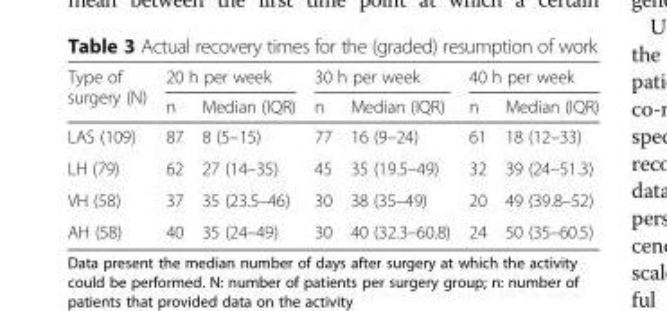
<table><thead><tr><td rowspan="2">Type of surgery (N)</td><td colspan="2">20 h per week</td><td colspan="2">30 h per week</td><td colspan="2">40 h per week</td></tr><tr><td>n</td><td>Median (IQR)</td><td>n</td><td>Median (IQR)</td><td>n</td><td>Median (IQR)</td></tr></thead><tbody><tr><td>LAS (109)</td><td>87</td><td>8 (5–15)</td><td>77</td><td>16 (9–24)</td><td>61</td><td>18 (12–33)</td></tr><tr><td>LH (79)</td><td>62</td><td>27 (14–35)</td><td>45</td><td>35 (19.5–49)</td><td>32</td><td>39 (24–51.3)</td></tr><tr><td>VH (58)</td><td>37</td><td>35 (23.5–46)</td><td>30</td><td>38 (35–49)</td><td>20</td><td>49 (39.8–52)</td></tr><tr><td>AH (58)</td><td>40</td><td>35 (24–49)</td><td>30</td><td>40 (32.3–60.8)</td><td>24</td><td>50 (35–60.5)</td></tr></tbody></table>